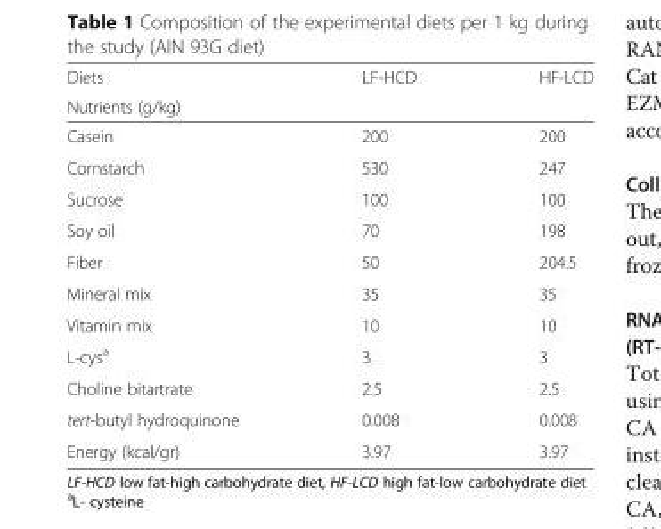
<table><thead><tr><td rowspan="2">Diets Nutrients (g/kg)</td><td rowspan="2">LF-HCD</td><td rowspan="2">HF-LCD</td></tr><tr></tr></thead><tbody><tr><td>Casein</td><td>200</td><td>200</td></tr><tr><td>Cornstarch</td><td>530</td><td>247</td></tr><tr><td>Sucrose</td><td>100</td><td>100</td></tr><tr><td>Soy oil</td><td>70</td><td>198</td></tr><tr><td>Fiber</td><td>50</td><td>204.5</td></tr><tr><td>Mineral mix</td><td>35</td><td>35</td></tr><tr><td>Vitamin mix</td><td>10</td><td>10</td></tr><tr><td>L-cys<sup>a</sup></td><td>3</td><td>3</td></tr><tr><td>Choline bitartrate</td><td>2.5</td><td>2.5</td></tr><tr><td>tert-butyl hydroquinone</td><td>0.008</td><td>0.008</td></tr><tr><td>Energy (kcal/gr)</td><td>3.97</td><td>3.97</td></tr></tbody></table>